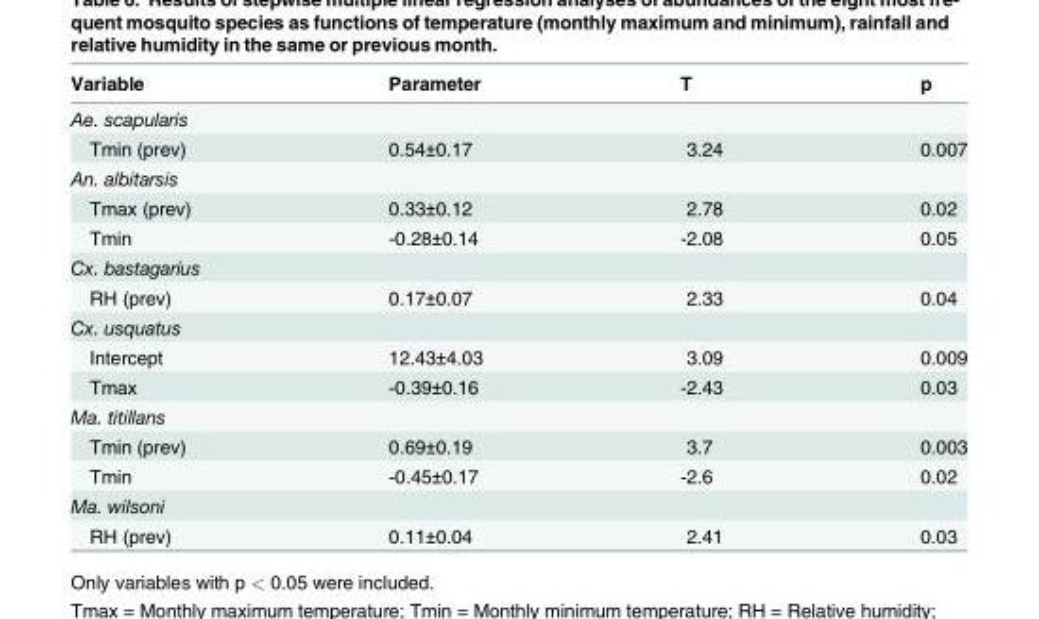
<table><thead><tr><td>Variable</td><td>Parameter</td><td>T</td><td>p</td></tr></thead><tbody><tr><td colspan="4">Ae. scapularis</td></tr><tr><td>Tmin (prev)</td><td>0.54±0.17</td><td>3.24</td><td>0.007</td></tr><tr><td colspan="4">An. albitarsis</td></tr><tr><td>Tmax (prev)</td><td>0.33±0.12</td><td>2.78</td><td>0.02</td></tr><tr><td>Tmin</td><td>-0.28±0.14</td><td>-2.08</td><td>0.05</td></tr><tr><td colspan="4">Cx. bastagarius</td></tr><tr><td>RH (prev)</td><td>0.17±0.07</td><td>2.33</td><td>0.04</td></tr><tr><td colspan="4">Cx. usquatus</td></tr><tr><td>Intercept</td><td>12.43±4.03</td><td>3.09</td><td>0.009</td></tr><tr><td>Tmax</td><td>-0.39±0.16</td><td>-2.43</td><td>0.03</td></tr><tr><td colspan="4">Ma. titillans</td></tr><tr><td>Tmin (prev)</td><td>0.69±0.19</td><td>3.7</td><td>0.003</td></tr><tr><td>Tmin</td><td>-0.45±0.17</td><td>-2.6</td><td>0.02</td></tr><tr><td colspan="4">Ma. wilsoni</td></tr><tr><td>RH (prev)</td><td>0.11±0.04</td><td>2.41</td><td>0.03</td></tr></tbody></table>